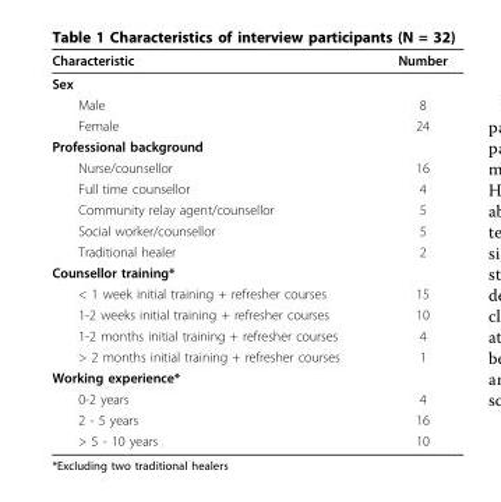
<table><thead><tr><td>Characteristic</td><td>Number</td></tr></thead><tbody><tr><td colspan="2">Sex</td></tr><tr><td>Male</td><td>8</td></tr><tr><td>Female</td><td>24</td></tr><tr><td colspan="2">Professional background</td></tr><tr><td>Nurse/counsellor</td><td>16</td></tr><tr><td>Full time counsellor</td><td>4</td></tr><tr><td>Community relay agent/counsellor</td><td>5</td></tr><tr><td>Social worker/counsellor</td><td>5</td></tr><tr><td>Traditional healer</td><td>2</td></tr><tr><td colspan="2">Counsellor training*</td></tr><tr><td>&lt; 1 week initial training + refresher courses</td><td>15</td></tr><tr><td>1-2 weeks initial training + refresher courses</td><td>10</td></tr><tr><td>1-2 months initial training + refresher courses</td><td>4</td></tr><tr><td>&gt; 2 months initial training + refresher courses</td><td>1</td></tr><tr><td colspan="2">Working experience*</td></tr><tr><td>0-2 years</td><td>4</td></tr><tr><td>2 - 5 years</td><td>16</td></tr><tr><td>&gt; 5 - 10 years</td><td>10</td></tr></tbody></table>